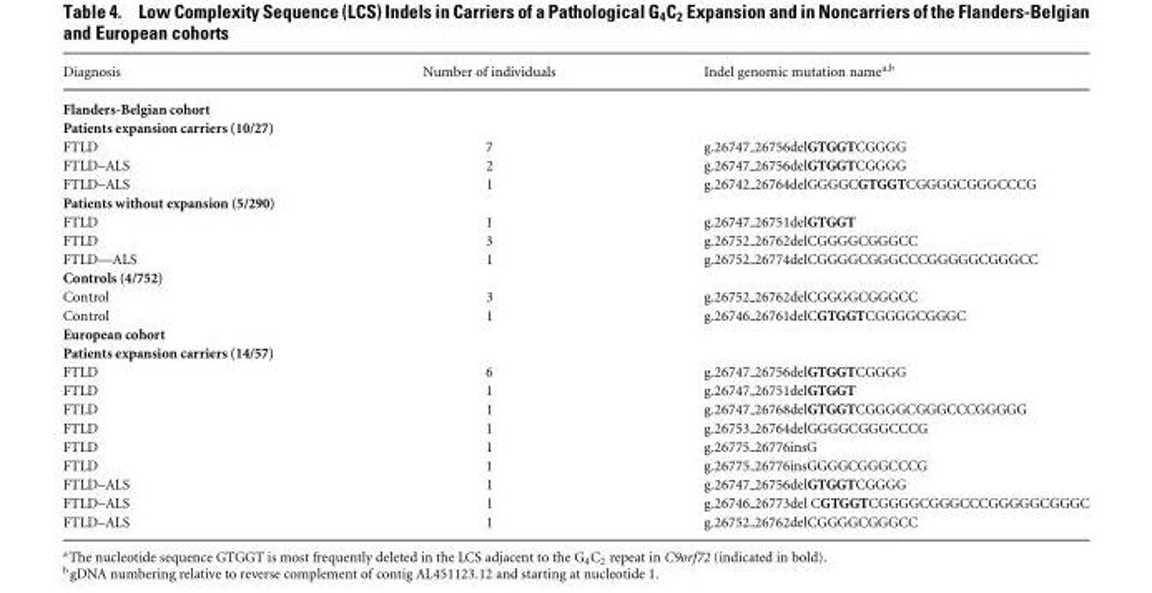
<table><thead><tr><td>Diagnosis</td><td>Number of individuals</td><td>Indel genomic mutation name<sup>a</sup>,<sup>b</sup></td></tr></thead><tbody><tr><td colspan="3">Flanders-Belgian cohort</td></tr><tr><td colspan="3">Patients expansion carriers (10/27)</td></tr><tr><td>FTLD</td><td>7</td><td>g.26747 26756delGTGGTCGGGG</td></tr><tr><td>FTLD–ALS</td><td>2</td><td>g.26747 26756delGTGGTCGGGG</td></tr><tr><td>FTLD–ALS</td><td>1</td><td>g.26742 26764delGGGGCGTGGTCGGGGCGGGCCCG</td></tr><tr><td colspan="3">Patients without expansion (5/290)</td></tr><tr><td>FTLD</td><td>1</td><td>g.26747 26751delGTGGT</td></tr><tr><td>FTLD</td><td>3</td><td>g.26752 26762delCGGGGCGGGCC</td></tr><tr><td>FTLD—ALS</td><td>1</td><td>g.26752 26774delCGGGGCGGGCCCGGGGGCGGGCC</td></tr><tr><td colspan="3">Controls (4/752)</td></tr><tr><td>Control</td><td>3</td><td>g.26752 26762delCGGGGCGGGCC</td></tr><tr><td>Control</td><td>1</td><td>g.26746 26761delCGTGGTCGGGGCGGGC</td></tr><tr><td colspan="3">European cohort</td></tr><tr><td colspan="3">Patients expansion carriers (14/57)</td></tr><tr><td>FTLD</td><td>6</td><td>g.26747 26756delGTGGTCGGGG</td></tr><tr><td>FTLD</td><td>1</td><td>g.26747 26751delGTGGT</td></tr><tr><td>FTLD</td><td>1</td><td>g.26747 26768delGTGGTCGGGGCGGGCCCGGGGG</td></tr><tr><td>FTLD</td><td>1</td><td>g.26753 26764delGGGGCGGGCCCG</td></tr><tr><td>FTLD</td><td>1</td><td>g.26775 26776insG</td></tr><tr><td>FTLD</td><td>1</td><td>g.26775 26776insGGGGCGGGCCCG</td></tr><tr><td>FTLD–ALS</td><td>1</td><td>g.26747 26756delGTGGTCGGGG</td></tr><tr><td>FTLD–ALS</td><td>1</td><td>g.26746 26773del CGTGGTCGGGGCGGGCCCGGGGGCGGGC</td></tr><tr><td>FTLD–ALS</td><td>1</td><td>g.26752 26762delCGGGGCGGGCC</td></tr></tbody></table>